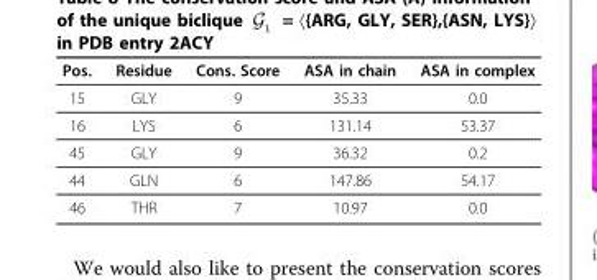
<table><thead><tr><td>Pos.</td><td>Residue</td><td>Cons. Score</td><td>ASA in chain</td><td>ASA in complex</td></tr></thead><tbody><tr><td>15</td><td>GLY</td><td>9</td><td>35.33</td><td>0.0</td></tr><tr><td>16</td><td>LYS</td><td>6</td><td>131.14</td><td>53.37</td></tr><tr><td>45</td><td>GLY</td><td>9</td><td>36.32</td><td>0.2</td></tr><tr><td>44</td><td>GLN</td><td>6</td><td>147.86</td><td>54.17</td></tr><tr><td>46</td><td>THR</td><td>7</td><td>10.97</td><td>0.0</td></tr></tbody></table>